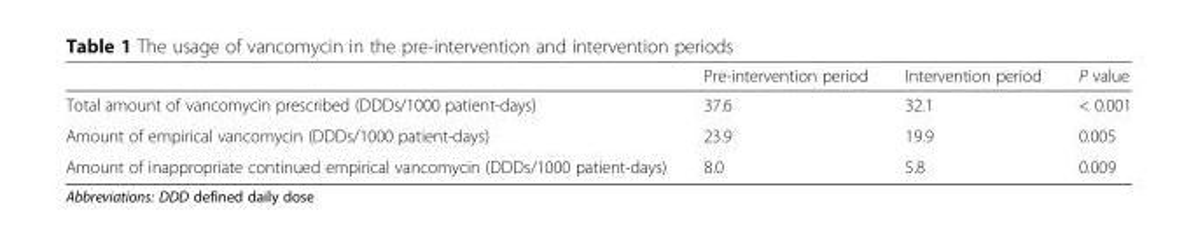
<table><thead><tr><td></td><td>Pre-intervention period</td><td>Intervention period</td><td>P value</td></tr></thead><tbody><tr><td>Total amount of vancomycin prescribed (DDDs/1000 patient-days)</td><td>37.6</td><td>32.1</td><td>&lt; 0.001</td></tr><tr><td>Amount of empirical vancomycin (DDDs/1000 patient-days)</td><td>23.9</td><td>19.9</td><td>0.005</td></tr><tr><td>Amount of inappropriate continued empirical vancomycin (DDDs/1000 patient-days)</td><td>8.0</td><td>5.8</td><td>0.009</td></tr></tbody></table>